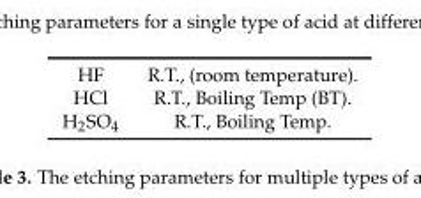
<table><tbody><tr><td>HF</td><td>R.T., (room temperature).</td></tr><tr><td>HCl</td><td>R.T., Boiling Temp (BT).</td></tr><tr><td>H<sub>2</sub>SO<sub>4</sub></td><td>R.T., Boiling Temp.</td></tr></tbody></table>